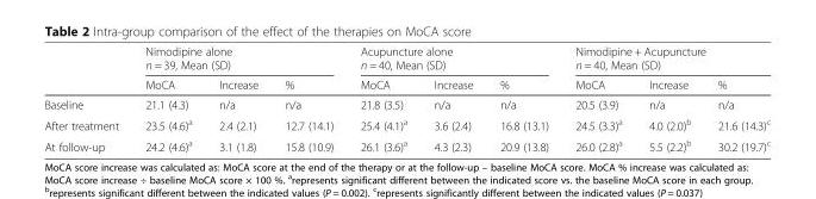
<table><thead><tr><td rowspan="3"></td><td rowspan="2" colspan="3">Nimodipine alone n = 39, Mean (SD)</td><td rowspan="2" colspan="3">Acupuncture alone n = 40, Mean (SD)</td><td rowspan="2" colspan="3">Nimodipine + Acupuncture n = 40, Mean (SD)</td></tr><tr></tr><tr><td>MoCA</td><td>Increase</td><td>%</td><td>MoCA</td><td>Increase</td><td>%</td><td>MoCA</td><td>Increase</td><td>%</td></tr></thead><tbody><tr><td>Baseline</td><td>21.1 (4.3)</td><td>n/a</td><td>n/a</td><td>21.8 (3.5)</td><td>n/a</td><td>n/a</td><td>20.5 (3.9)</td><td>n/a</td><td>n/a</td></tr><tr><td>After treatment</td><td>23.5 (4.6)<sup>a</sup></td><td>2.4 (2.1)</td><td>12.7 (14.1)</td><td>25.4 (4.1)<sup>a</sup></td><td>3.6 (2.4)</td><td>16.8 (13.1)</td><td>24.5 (3.3)<sup>a</sup></td><td>4.0 (2.0)<sup>b</sup></td><td>21.6 (14.3)<sup>c</sup></td></tr><tr><td>At follow-up</td><td>24.2 (4.6)<sup>a</sup></td><td>3.1 (1.8)</td><td>15.8 (10.9)</td><td>26.1 (3.6)<sup>a</sup></td><td>4.3 (2.3)</td><td>20.9 (13.8)</td><td>26.0 (2.8)<sup>a</sup></td><td>5.5 (2.2)<sup>b</sup></td><td>30.2 (19.7)<sup>c</sup></td></tr></tbody></table>